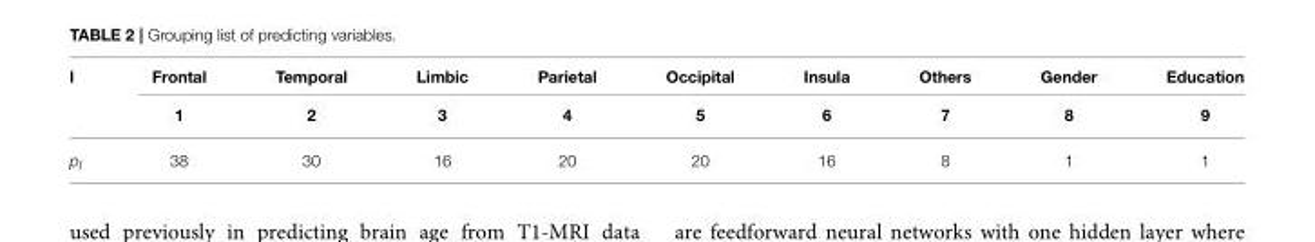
<table><thead><tr><td rowspan="2">l</td><td rowspan="2">Frontal 1</td><td rowspan="2">Temporal 2</td><td rowspan="2">Limbic 3</td><td rowspan="2">Parietal 4</td><td rowspan="2">Occipital 5</td><td rowspan="2">Insula 6</td><td rowspan="2">Others 7</td><td rowspan="2">Gender 8</td><td rowspan="2">Education 9</td></tr><tr></tr></thead><tbody><tr><td>p<sub>l</sub></td><td>38</td><td>30</td><td>16</td><td>20</td><td>20</td><td>16</td><td>8</td><td>1</td><td>1</td></tr></tbody></table>